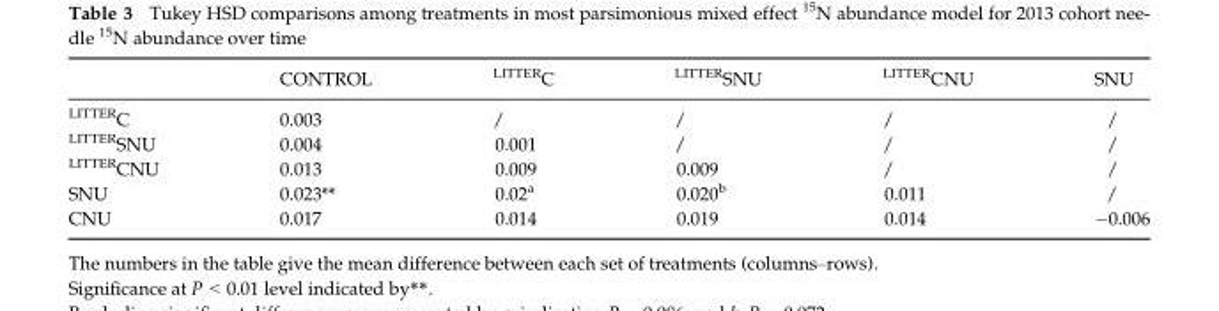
<table><thead><tr><td></td><td>CONTROL</td><td><sup>LITTER</sup>C</td><td><sup>LITTER</sup>SNU</td><td><sup>LITTER</sup>CNU</td><td>SNU</td></tr></thead><tbody><tr><td><sup>LITTER</sup>C</td><td>0.003</td><td>/</td><td>/</td><td>/</td><td>/</td></tr><tr><td><sup>LITTER</sup>SNU</td><td>0.004</td><td>0.001</td><td>/</td><td>/</td><td>/</td></tr><tr><td><sup>LITTER</sup>CNU</td><td>0.013</td><td>0.009</td><td>0.009</td><td>/</td><td>/</td></tr><tr><td>SNU</td><td>0.023**</td><td>0.02<sup>a</sup></td><td>0.020<sup>b</sup></td><td>0.011</td><td>/</td></tr><tr><td>CNU</td><td>0.017</td><td>0.014</td><td>0.019</td><td>0.014</td><td>−0.006</td></tr></tbody></table>